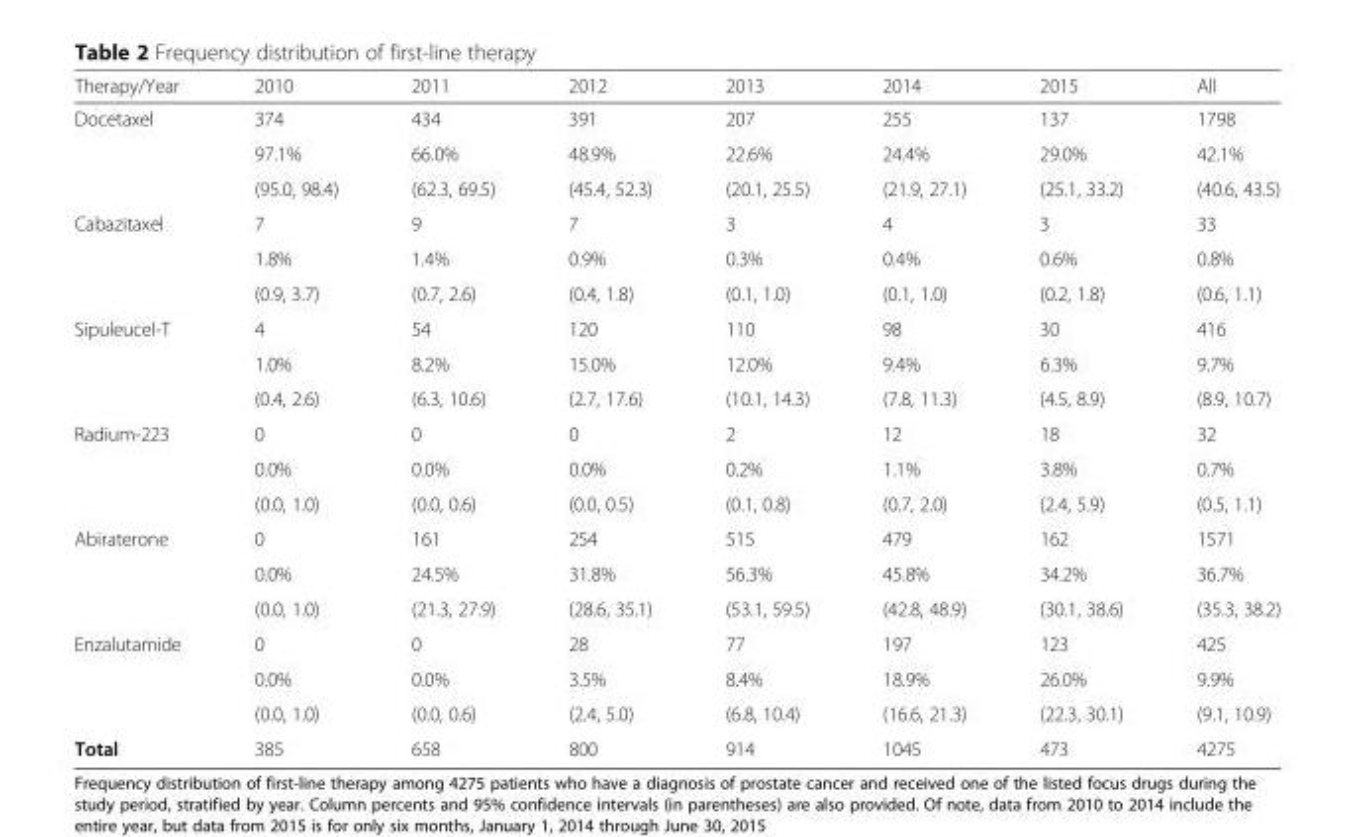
<table><thead><tr><td>Therapy/Year</td><td>2010</td><td>2011</td><td>2012</td><td>2013</td><td>2014</td><td>2015</td><td>All</td></tr></thead><tbody><tr><td rowspan="3">Docetaxel</td><td>374</td><td>434</td><td>391</td><td>207</td><td>255</td><td>137</td><td>1798</td></tr><tr><td>97.1%</td><td>66.0%</td><td>48.9%</td><td>22.6%</td><td>24.4%</td><td>29.0%</td><td>42.1%</td></tr><tr><td>(95.0, 98.4)</td><td>(62.3, 69.5)</td><td>(45.4, 52.3)</td><td>(20.1, 25.5)</td><td>(21.9, 27.1)</td><td>(25.1, 33.2)</td><td>(40.6, 43.5)</td></tr><tr><td rowspan="3">Cabazitaxel</td><td>7</td><td>9</td><td>7</td><td>3</td><td>4</td><td>3</td><td>33</td></tr><tr><td>1.8%</td><td>1.4%</td><td>0.9%</td><td>0.3%</td><td>0.4%</td><td>0.6%</td><td>0.8%</td></tr><tr><td>(0.9, 3.7)</td><td>(0.7, 2.6)</td><td>(0.4, 1.8)</td><td>(0.1, 1.0)</td><td>(0.1, 1.0)</td><td>(0.2, 1.8)</td><td>(0.6, 1.1)</td></tr><tr><td rowspan="3">Sipuleucel-T</td><td>4</td><td>54</td><td>120</td><td>110</td><td>98</td><td>30</td><td>416</td></tr><tr><td>1.0%</td><td>8.2%</td><td>15.0%</td><td>12.0%</td><td>9.4%</td><td>6.3%</td><td>9.7%</td></tr><tr><td>(0.4, 2.6)</td><td>(6.3, 10.6)</td><td>(2.7, 17.6)</td><td>(10.1, 14.3)</td><td>(7.8, 11.3)</td><td>(4.5, 8.9)</td><td>(8.9, 10.7)</td></tr><tr><td rowspan="3">Radium-223</td><td>0</td><td>0</td><td>0</td><td>2</td><td>12</td><td>18</td><td>32</td></tr><tr><td>0.0%</td><td>0.0%</td><td>0.0%</td><td>0.2%</td><td>1.1%</td><td>3.8%</td><td>0.7%</td></tr><tr><td>(0.0, 1.0)</td><td>(0.0, 0.6)</td><td>(0.0, 0.5)</td><td>(0.1, 0.8)</td><td>(0.7, 2.0)</td><td>(2.4, 5.9)</td><td>(0.5, 1.1)</td></tr><tr><td rowspan="3">Abiraterone</td><td>0</td><td>161</td><td>254</td><td>515</td><td>479</td><td>162</td><td>1571</td></tr><tr><td>0.0%</td><td>24.5%</td><td>31.8%</td><td>56.3%</td><td>45.8%</td><td>34.2%</td><td>36.7%</td></tr><tr><td>(0.0, 1.0)</td><td>(21.3, 27.9)</td><td>(28.6, 35.1)</td><td>(53.1, 59.5)</td><td>(42.8, 48.9)</td><td>(30.1, 38.6)</td><td>(35.3, 38.2)</td></tr><tr><td rowspan="3">Enzalutamide</td><td>0</td><td>0</td><td>28</td><td>77</td><td>197</td><td>123</td><td>425</td></tr><tr><td>0.0%</td><td>0.0%</td><td>3.5%</td><td>8.4%</td><td>18.9%</td><td>26.0%</td><td>9.9%</td></tr><tr><td>(0.0, 1.0)</td><td>(0.0, 0.6)</td><td>(2.4, 5.0)</td><td>(6.8, 10.4)</td><td>(16.6, 21.3)</td><td>(22.3, 30.1)</td><td>(9.1, 10.9)</td></tr><tr><td>Total</td><td>385</td><td>658</td><td>800</td><td>914</td><td>1045</td><td>473</td><td>4275</td></tr></tbody></table>